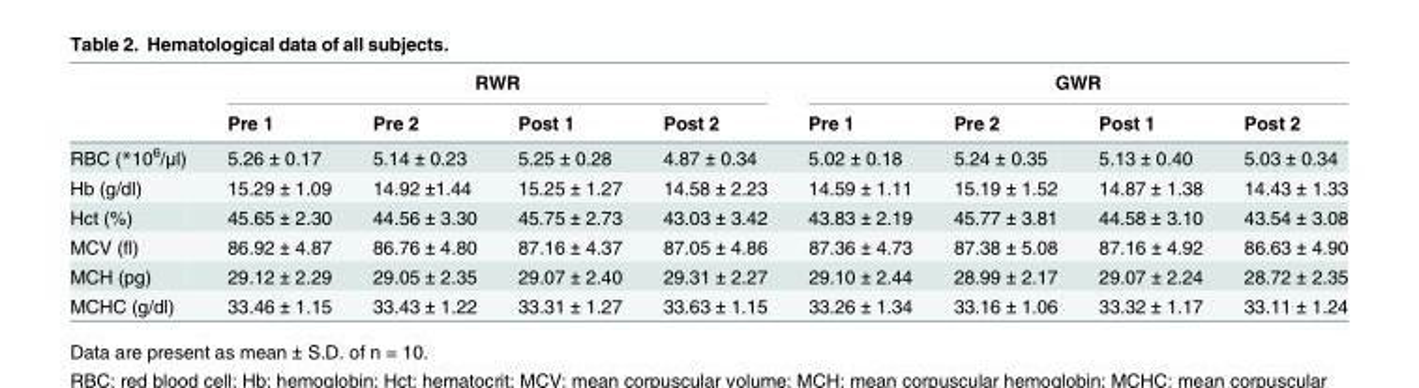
<table><thead><tr><td rowspan="2"></td><td colspan="4">RWR</td><td colspan="4">GWR</td></tr><tr><td>Pre 1</td><td>Pre 2</td><td>Post 1</td><td>Post 2</td><td>Pre 1</td><td>Pre 2</td><td>Post 1</td><td>Post 2</td></tr></thead><tbody><tr><td>RBC (*10<sup>6</sup>/μl)</td><td>5.26 ± 0.17</td><td>5.14 ± 0.23</td><td>5.25 ± 0.28</td><td>4.87 ± 0.34</td><td>5.02 ± 0.18</td><td>5.24 ± 0.35</td><td>5.13 ± 0.40</td><td>5.03 ± 0.34</td></tr><tr><td>Hb (g/dl)</td><td>15.29 ± 1.09</td><td>14.92 ±1.44</td><td>15.25 ± 1.27</td><td>14.58 ± 2.23</td><td>14.59 ± 1.11</td><td>15.19 ± 1.52</td><td>14.87 ± 1.38</td><td>14.43 ± 1.33</td></tr><tr><td>Hct (%)</td><td>45.65 ± 2.30</td><td>44.56 ± 3.30</td><td>45.75 ± 2.73</td><td>43.03 ± 3.42</td><td>43.83 ± 2.19</td><td>45.77 ± 3.81</td><td>44.58 ± 3.10</td><td>43.54 ± 3.08</td></tr><tr><td>MCV (fl)</td><td>86.92 ± 4.87</td><td>86.76 ± 4.80</td><td>87.16 ± 4.37</td><td>87.05 ± 4.86</td><td>87.36 ± 4.73</td><td>87.38 ± 5.08</td><td>87.16 ± 4.92</td><td>86.63 ± 4.90</td></tr><tr><td>MCH (pg)</td><td>29.12 ± 2.29</td><td>29.05 ± 2.35</td><td>29.07 ± 2.40</td><td>29.31 ± 2.27</td><td>29.10 ± 2.44</td><td>28.99 ± 2.17</td><td>29.07 ± 2.24</td><td>28.72 ± 2.35</td></tr><tr><td>MCHC (g/dl)</td><td>33.46 ± 1.15</td><td>33.43 ± 1.22</td><td>33.31 ± 1.27</td><td>33.63 ± 1.15</td><td>33.26 ± 1.34</td><td>33.16 ± 1.06</td><td>33.32 ± 1.17</td><td>33.11 ± 1.24</td></tr></tbody></table>